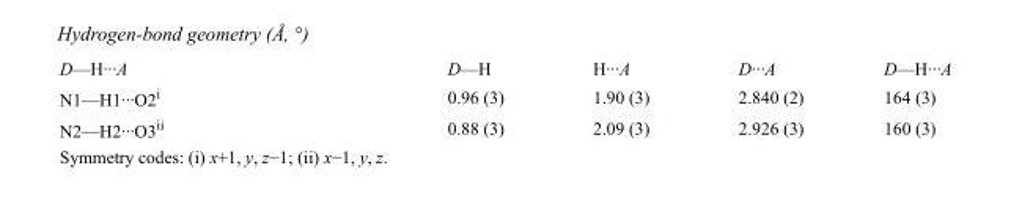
<table><tbody><tr><td>D—H···A</td><td>D—H</td><td>H···A</td><td>D···A</td><td>D—H···A</td></tr><tr><td>N1—H1···O2<sup>i</sup></td><td>0.96 (3)</td><td>1.90 (3)</td><td>2.840 (2)</td><td>164 (3)</td></tr><tr><td>N2—H2···O3<sup>ii</sup></td><td>0.88 (3)</td><td>2.09 (3)</td><td>2.926 (3)</td><td>160 (3)</td></tr></tbody></table>